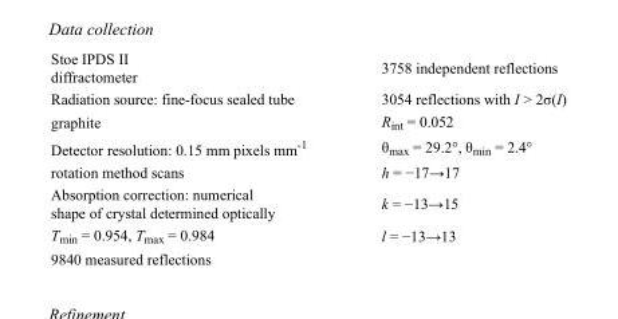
<table><tbody><tr><td>Stoe IPDS II diffractometer</td><td>3758 independent reflections</td></tr><tr><td>Radiation source: fine-focus sealed tube</td><td>3054 reflections with I &gt; 2σ(I)</td></tr><tr><td>graphite</td><td>R<sub>int</sub> = 0.052</td></tr><tr><td>Detector resolution: 0.15 mm pixels mm<sup>-1</sup></td><td>θ<sub>max</sub> = 29.2°, θ<sub>min</sub> = 2.4°</td></tr><tr><td>rotation method scans</td><td>h = −17→17</td></tr><tr><td>Absorption correction: numerical shape of crystal determined optically</td><td>k = −13→15</td></tr><tr><td>T<sub>min</sub> = 0.954, T<sub>max</sub> = 0.984</td><td>l = −13→13</td></tr><tr><td>9840 measured reflections</td><td></td></tr></tbody></table>